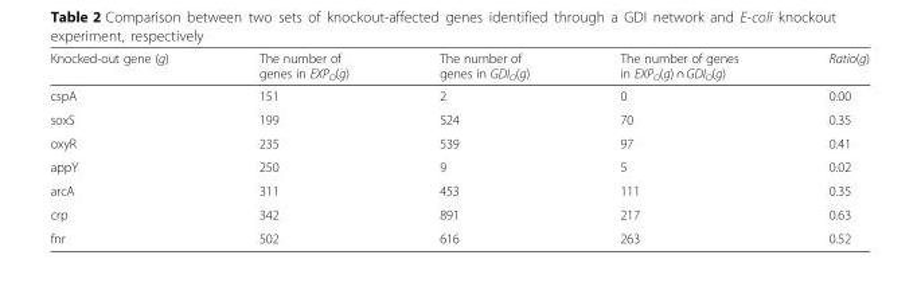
<table><thead><tr><td>Knocked-out gene (g)</td><td>The number of genes in EXP<sub>O</sub>(g)</td><td>The number of genes in GDI<sub>O</sub>(g)</td><td>The number of genes in EXP<sub>O</sub>(g) ∩ GDI<sub>O</sub>(g)</td><td>Ratio(g)</td></tr></thead><tbody><tr><td>cspA</td><td>151</td><td>2</td><td>0</td><td>0.00</td></tr><tr><td>soxS</td><td>199</td><td>524</td><td>70</td><td>0.35</td></tr><tr><td>oxyR</td><td>235</td><td>539</td><td>97</td><td>0.41</td></tr><tr><td>appY</td><td>250</td><td>9</td><td>5</td><td>0.02</td></tr><tr><td>arcA</td><td>311</td><td>453</td><td>111</td><td>0.35</td></tr><tr><td>crp</td><td>342</td><td>891</td><td>217</td><td>0.63</td></tr><tr><td>fnr</td><td>502</td><td>616</td><td>263</td><td>0.52</td></tr></tbody></table>